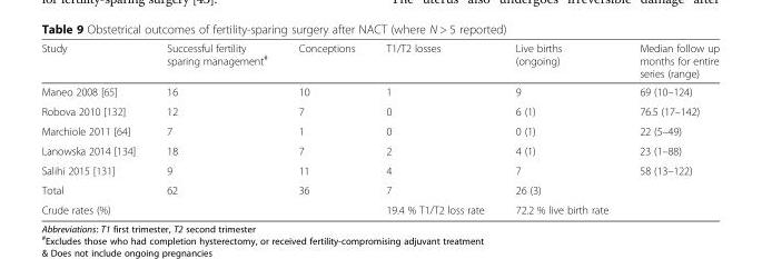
<table><thead><tr><td>Study</td><td>Successful fertility sparing management<sup>#</sup></td><td>Conceptions</td><td>T1/T2 losses</td><td>Live births (ongoing)</td><td>Median follow up months for entire series (range)</td></tr></thead><tbody><tr><td>Maneo 2008 [65]</td><td>16</td><td>10</td><td>1</td><td>9</td><td>69 (10–124)</td></tr><tr><td>Robova 2010 [132]</td><td>12</td><td>7</td><td>0</td><td>6 (1)</td><td>76.5 (17–142)</td></tr><tr><td>Marchiole 2011 [64]</td><td>7</td><td>1</td><td>0</td><td>0 (1)</td><td>22 (5–49)</td></tr><tr><td>Lanowska 2014 [134]</td><td>18</td><td>7</td><td>2</td><td>4 (1)</td><td>23 (1–88)</td></tr><tr><td>Salihi 2015 [131]</td><td>9</td><td>11</td><td>4</td><td>7</td><td>58 (13–122)</td></tr><tr><td>Total</td><td>62</td><td>36</td><td>7</td><td>26 (3)</td><td></td></tr><tr><td>Crude rates (%)</td><td></td><td></td><td>19.4 % T1/T2 loss rate</td><td>72.2 % live birth rate</td><td></td></tr></tbody></table>